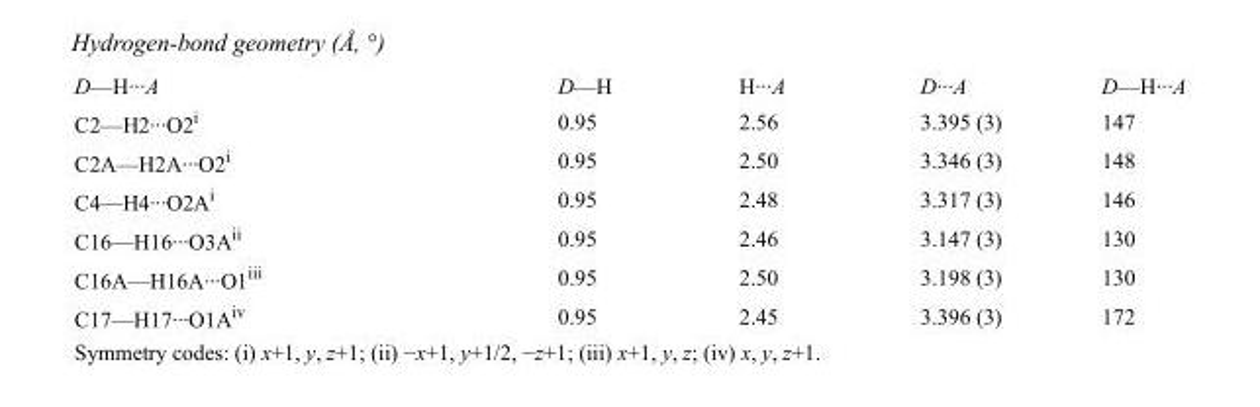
<table><tbody><tr><td>D—H···A</td><td>D—H</td><td>H···A</td><td>D···A</td><td>D—H···A</td></tr><tr><td>C2—H2···O2<sup>i</sup></td><td>0.95</td><td>2.56</td><td>3.395 (3)</td><td>147</td></tr><tr><td>C2A—H2A···O2<sup>i</sup></td><td>0.95</td><td>2.50</td><td>3.346 (3)</td><td>148</td></tr><tr><td>C4—H4···O2A<sup>i</sup></td><td>0.95</td><td>2.48</td><td>3.317 (3)</td><td>146</td></tr><tr><td>C16—H16···O3A<sup>ii</sup></td><td>0.95</td><td>2.46</td><td>3.147 (3)</td><td>130</td></tr><tr><td>C16A—H16A···O1<sup>iii</sup></td><td>0.95</td><td>2.50</td><td>3.198 (3)</td><td>130</td></tr><tr><td>C17—H17···O1A<sup>iv</sup></td><td>0.95</td><td>2.45</td><td>3.396 (3)</td><td>172</td></tr></tbody></table>